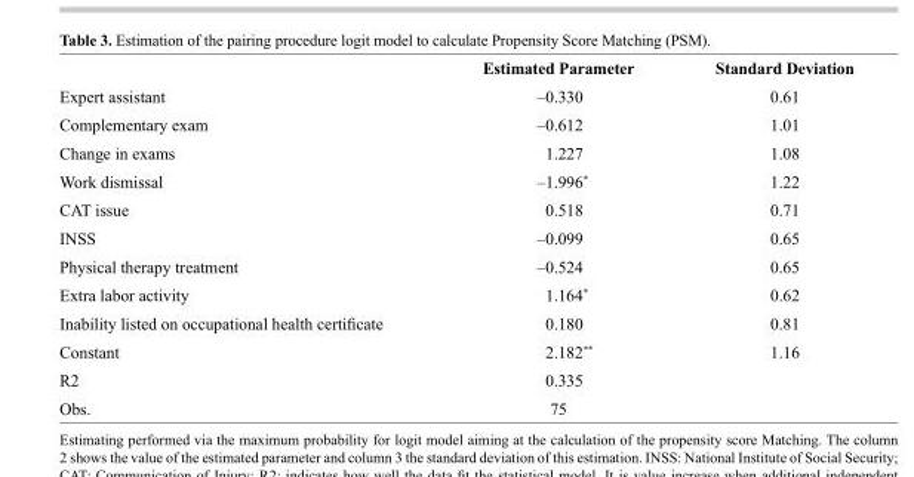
<table><thead><tr><td></td><td>Estimated Parameter</td><td>Standard Deviation</td></tr></thead><tbody><tr><td>Expert assistant</td><td>–0.330</td><td>0.61</td></tr><tr><td>Complementary exam</td><td>–0.612</td><td>1.01</td></tr><tr><td>Change in exams</td><td>1.227</td><td>1.08</td></tr><tr><td>Work dismissal</td><td>–1.996*</td><td>1.22</td></tr><tr><td>CAT issue</td><td>0.518</td><td>0.71</td></tr><tr><td>INSS</td><td>–0.099</td><td>0.65</td></tr><tr><td>Physical therapy treatment</td><td>–0.524</td><td>0.65</td></tr><tr><td>Extra labor activity</td><td>1.164*</td><td>0.62</td></tr><tr><td>Inability listed on occupational health certificate</td><td>0.180</td><td>0.81</td></tr><tr><td>Constant</td><td>2.182**</td><td>1.16</td></tr><tr><td>R2</td><td>0.335</td><td></td></tr><tr><td>Obs.</td><td>75</td><td></td></tr></tbody></table>